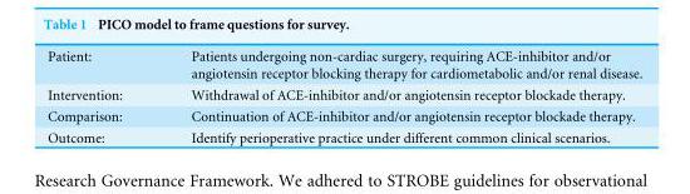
<table><tbody><tr><td>Patient:</td><td>Patients undergoing non-cardiac surgery, requiring ACE-inhibitor and/or angiotensin receptor blocking therapy for cardiometabolic and/or renal disease.</td></tr><tr><td>Intervention:</td><td>Withdrawal of ACE-inhibitor and/or angiotensin receptor blockade therapy.</td></tr><tr><td>Comparison:</td><td>Continuation of ACE-inhibitor and/or angiotensin receptor blockade therapy.</td></tr><tr><td>Outcome:</td><td>Identify perioperative practice under different common clinical scenarios.</td></tr></tbody></table>